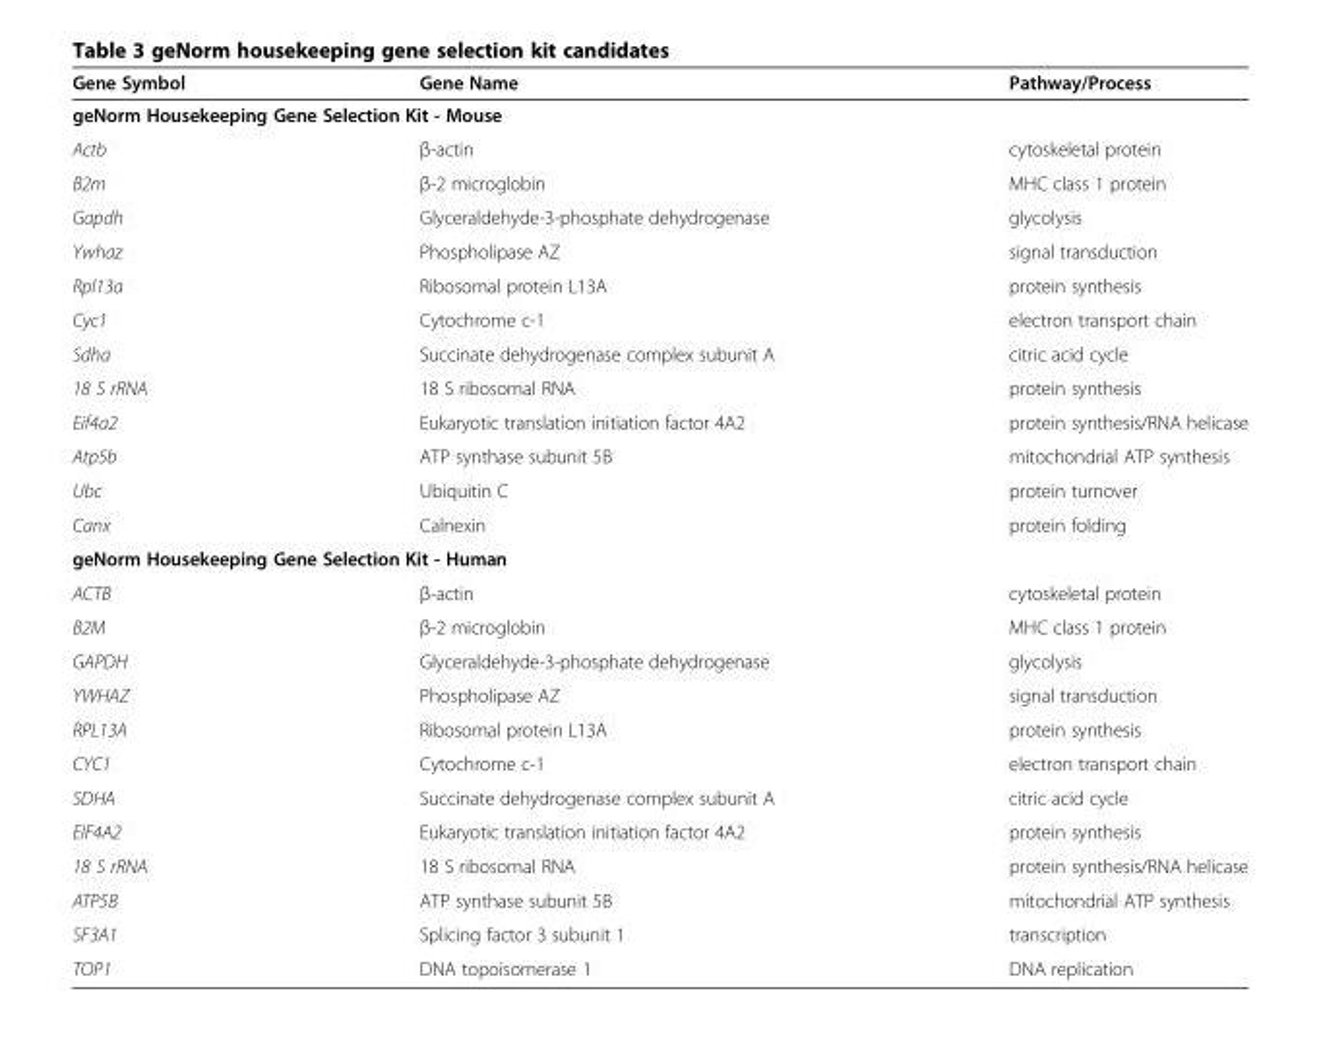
<table><thead><tr><td>Gene Symbol</td><td>Gene Name</td><td>Pathway/Process</td></tr></thead><tbody><tr><td colspan="3">geNorm Housekeeping Gene Selection Kit - Mouse</td></tr><tr><td>Actb</td><td>β-actin</td><td>cytoskeletal protein</td></tr><tr><td>B2m</td><td>β-2 microglobin</td><td>MHC class 1 protein</td></tr><tr><td>Gapdh</td><td>Glyceraldehyde-3-phosphate dehydrogenase</td><td>glycolysis</td></tr><tr><td>Ywhaz</td><td>Phospholipase AZ</td><td>signal transduction</td></tr><tr><td>Rpl13a</td><td>Ribosomal protein L13A</td><td>protein synthesis</td></tr><tr><td>Cyc1</td><td>Cytochrome c-1</td><td>electron transport chain</td></tr><tr><td>Sdha</td><td>Succinate dehydrogenase complex subunit A</td><td>citric acid cycle</td></tr><tr><td>18 S rRNA</td><td>18 S ribosomal RNA</td><td>protein synthesis</td></tr><tr><td>Eif4a2</td><td>Eukaryotic translation initiation factor 4A2</td><td>protein synthesis/RNA helicase</td></tr><tr><td>Atp5b</td><td>ATP synthase subunit 5B</td><td>mitochondrial ATP synthesis</td></tr><tr><td>Ubc</td><td>Ubiquitin C</td><td>protein turnover</td></tr><tr><td>Canx</td><td>Calnexin</td><td>protein folding</td></tr><tr><td colspan="3">geNorm Housekeeping Gene Selection Kit - Human</td></tr><tr><td>ACTB</td><td>β-actin</td><td>cytoskeletal protein</td></tr><tr><td>B2M</td><td>β-2 microglobin</td><td>MHC class 1 protein</td></tr><tr><td>GAPDH</td><td>Glyceraldehyde-3-phosphate dehydrogenase</td><td>glycolysis</td></tr><tr><td>YWHAZ</td><td>Phospholipase AZ</td><td>signal transduction</td></tr><tr><td>RPL13A</td><td>Ribosomal protein L13A</td><td>protein synthesis</td></tr><tr><td>CYC1</td><td>Cytochrome c-1</td><td>electron transport chain</td></tr><tr><td>SDHA</td><td>Succinate dehydrogenase complex subunit A</td><td>citric acid cycle</td></tr><tr><td>EIF4A2</td><td>Eukaryotic translation initiation factor 4A2</td><td>protein synthesis</td></tr><tr><td>18 S rRNA</td><td>18 S ribosomal RNA</td><td>protein synthesis/RNA helicase</td></tr><tr><td>ATP5B</td><td>ATP synthase subunit 5B</td><td>mitochondrial ATP synthesis</td></tr><tr><td>SF3A1</td><td>Splicing factor 3 subunit 1</td><td>transcription</td></tr><tr><td>TOP1</td><td>DNA topoisomerase 1</td><td>DNA replication</td></tr></tbody></table>